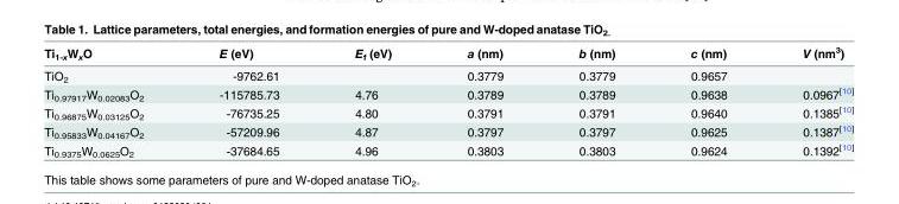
<table><thead><tr><td>Ti<sub>1-x</sub>W<sub>x</sub>O</td><td>E (eV)</td><td>E<sub>f</sub> (eV)</td><td>a (nm)</td><td>b (nm)</td><td>c (nm)</td><td>V (nm<sup>3</sup>)</td></tr></thead><tbody><tr><td>TiO<sub>2</sub></td><td>-9762.61</td><td></td><td>0.3779</td><td>0.3779</td><td>0.9657</td><td></td></tr><tr><td>Ti<sub>0.97917</sub>W<sub>0.02083</sub>O<sub>2</sub></td><td>-115785.73</td><td>4.76</td><td>0.3789</td><td>0.3789</td><td>0.9638</td><td>0.0967[<sup>10</sup>]</td></tr><tr><td>Ti<sub>0.96875</sub>W<sub>0.03125</sub>O<sub>2</sub></td><td>-76735.25</td><td>4.80</td><td>0.3791</td><td>0.3791</td><td>0.9640</td><td>0.1385[<sup>10</sup>]</td></tr><tr><td>Ti<sub>0.95833</sub>W<sub>0.04167</sub>O<sub>2</sub></td><td>-57209.96</td><td>4.87</td><td>0.3797</td><td>0.3797</td><td>0.9625</td><td>0.1387[<sup>10</sup>]</td></tr><tr><td>Ti<sub>0.9375</sub>W<sub>0.0625</sub>O<sub>2</sub></td><td>-37684.65</td><td>4.96</td><td>0.3803</td><td>0.3803</td><td>0.9624</td><td>0.1392[<sup>10</sup>]</td></tr></tbody></table>